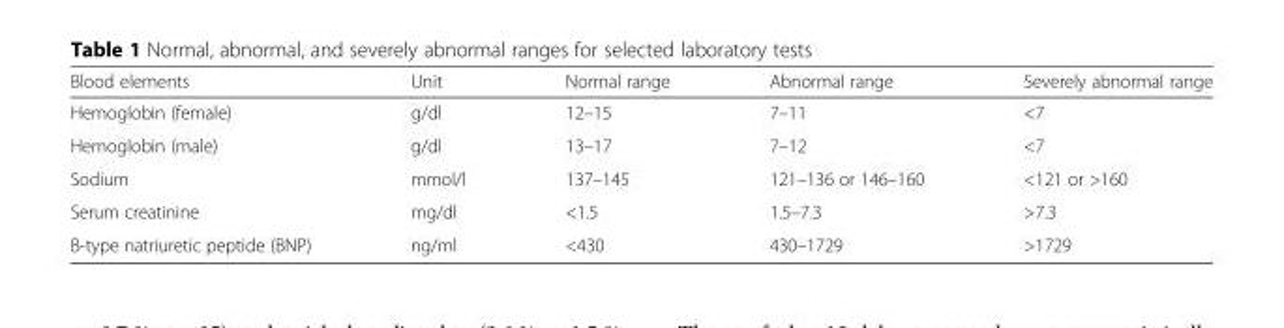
<table><thead><tr><td>Blood elements</td><td>Unit</td><td>Normal range</td><td>Abnormal range</td><td>Severely abnormal range</td></tr></thead><tbody><tr><td>Hemoglobin (female)</td><td>g/dl</td><td>12–15</td><td>7–11</td><td>&lt;7</td></tr><tr><td>Hemoglobin (male)</td><td>g/dl</td><td>13–17</td><td>7–12</td><td>&lt;7</td></tr><tr><td>Sodium</td><td>mmol/l</td><td>137–145</td><td>121–136 or 146–160</td><td>&lt;121 or &gt;160</td></tr><tr><td>Serum creatinine</td><td>mg/dl</td><td>&lt;1.5</td><td>1.5–7.3</td><td>&gt;7.3</td></tr><tr><td>B-type natriuretic peptide (BNP)</td><td>ng/ml</td><td>&lt;430</td><td>430–1729</td><td>&gt;1729</td></tr></tbody></table>